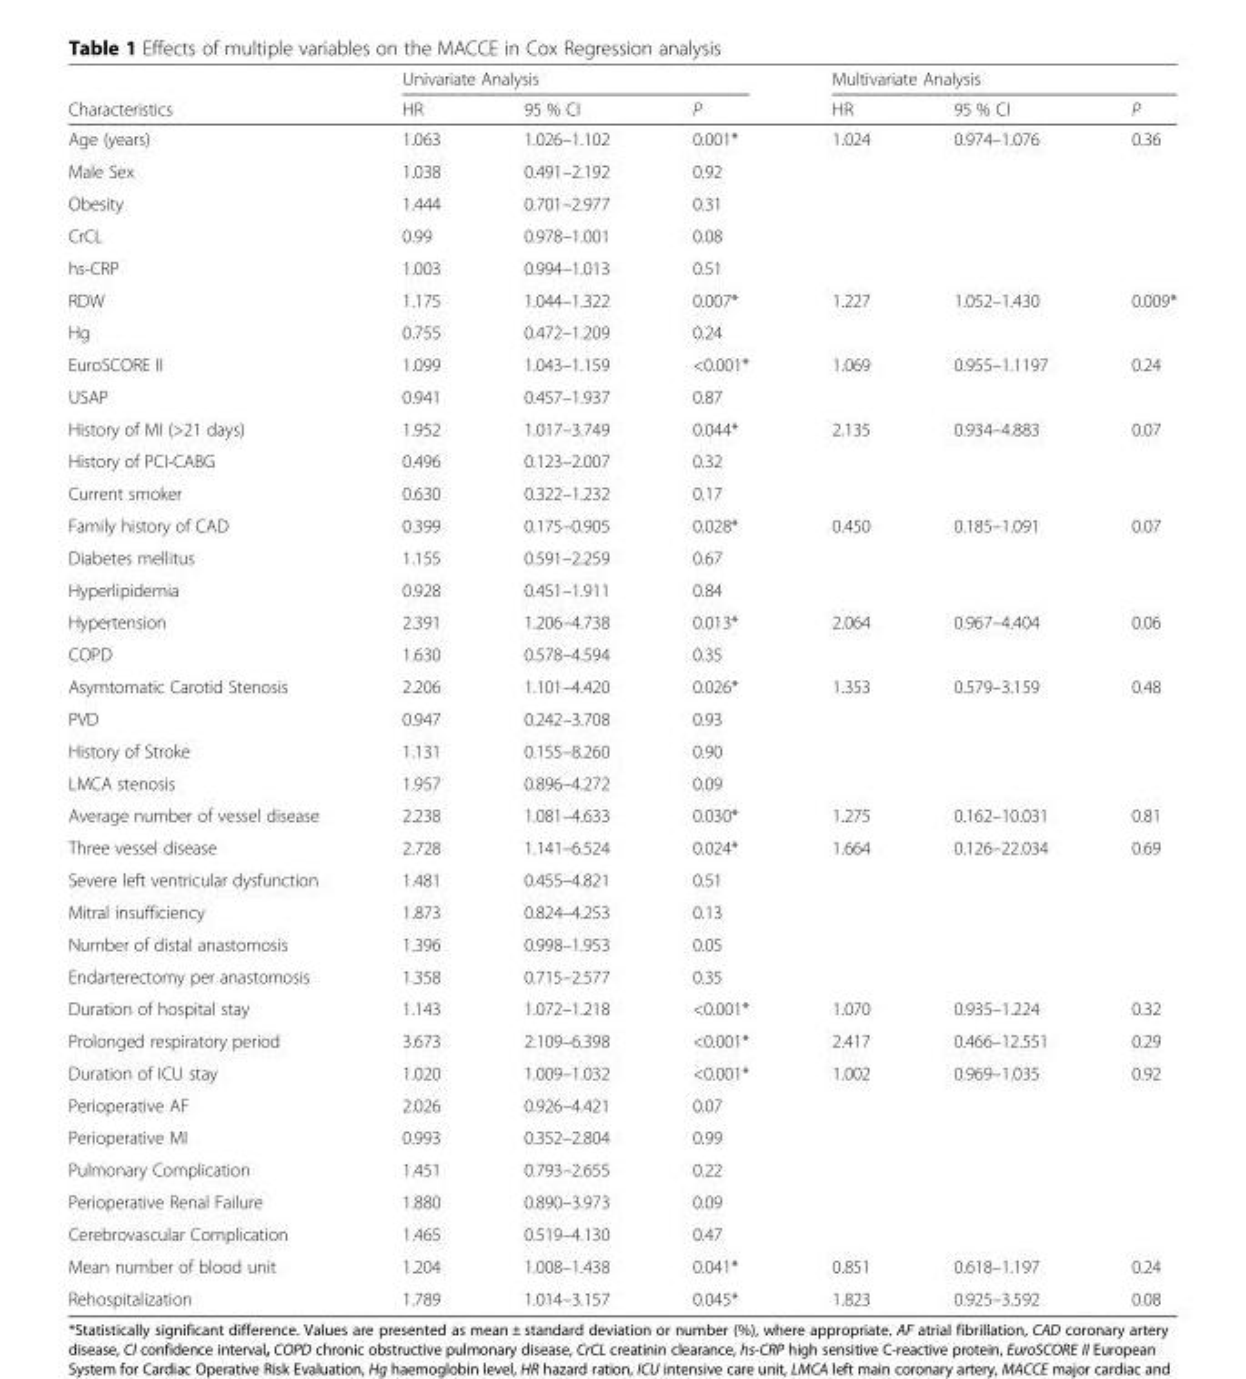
<table><thead><tr><td rowspan="2">Characteristics</td><td colspan="3">Univariate Analysis</td><td colspan="3">Multivariate Analysis</td></tr><tr><td>HR</td><td>95 % CI</td><td>P</td><td>HR</td><td>95 % CI</td><td>P</td></tr></thead><tbody><tr><td>Age (years)</td><td>1.063</td><td>1.026–1.102</td><td>0.001*</td><td>1.024</td><td>0.974–1.076</td><td>0.36</td></tr><tr><td>Male Sex</td><td>1.038</td><td>0.491–2.192</td><td>0.92</td><td></td><td></td><td></td></tr><tr><td>Obesity</td><td>1.444</td><td>0.701–2.977</td><td>0.31</td><td></td><td></td><td></td></tr><tr><td>CrCL</td><td>0.99</td><td>0.978–1.001</td><td>0.08</td><td></td><td></td><td></td></tr><tr><td>hs-CRP</td><td>1.003</td><td>0.994–1.013</td><td>0.51</td><td></td><td></td><td></td></tr><tr><td>RDW</td><td>1.175</td><td>1.044–1.322</td><td>0.007*</td><td>1.227</td><td>1.052–1.430</td><td>0.009*</td></tr><tr><td>Hg</td><td>0.755</td><td>0.472–1.209</td><td>0.24</td><td></td><td></td><td></td></tr><tr><td>EuroSCORE II</td><td>1.099</td><td>1.043–1.159</td><td>&lt;0.001*</td><td>1.069</td><td>0.955–1.1197</td><td>0.24</td></tr><tr><td>USAP</td><td>0.941</td><td>0.457–1.937</td><td>0.87</td><td></td><td></td><td></td></tr><tr><td>History of MI (&gt;21 days)</td><td>1.952</td><td>1.017–3.749</td><td>0.044*</td><td>2.135</td><td>0.934–4.883</td><td>0.07</td></tr><tr><td>History of PCI-CABG</td><td>0.496</td><td>0.123–2.007</td><td>0.32</td><td></td><td></td><td></td></tr><tr><td>Current smoker</td><td>0.630</td><td>0.322–1.232</td><td>0.17</td><td></td><td></td><td></td></tr><tr><td>Family history of CAD</td><td>0.399</td><td>0.175–0.905</td><td>0.028*</td><td>0.450</td><td>0.185–1.091</td><td>0.07</td></tr><tr><td>Diabetes mellitus</td><td>1.155</td><td>0.591–2.259</td><td>0.67</td><td></td><td></td><td></td></tr><tr><td>Hyperlipidemia</td><td>0.928</td><td>0.451–1.911</td><td>0.84</td><td></td><td></td><td></td></tr><tr><td>Hypertension</td><td>2.391</td><td>1.206–4.738</td><td>0.013*</td><td>2.064</td><td>0.967–4.404</td><td>0.06</td></tr><tr><td>COPD</td><td>1.630</td><td>0.578–4.594</td><td>0.35</td><td></td><td></td><td></td></tr><tr><td>Asymtomatic Carotid Stenosis</td><td>2.206</td><td>1.101–4.420</td><td>0.026*</td><td>1.353</td><td>0.579–3.159</td><td>0.48</td></tr><tr><td>PVD</td><td>0.947</td><td>0.242–3.708</td><td>0.93</td><td></td><td></td><td></td></tr><tr><td>History of Stroke</td><td>1.131</td><td>0.155–8.260</td><td>0.90</td><td></td><td></td><td></td></tr><tr><td>LMCA stenosis</td><td>1.957</td><td>0.896–4.272</td><td>0.09</td><td></td><td></td><td></td></tr><tr><td>Average number of vessel disease</td><td>2.238</td><td>1.081–4.633</td><td>0.030*</td><td>1.275</td><td>0.162–10.031</td><td>0.81</td></tr><tr><td>Three vessel disease</td><td>2.728</td><td>1.141–6.524</td><td>0.024*</td><td>1.664</td><td>0.126–22.034</td><td>0.69</td></tr><tr><td>Severe left ventricular dysfunction</td><td>1.481</td><td>0.455–4.821</td><td>0.51</td><td></td><td></td><td></td></tr><tr><td>Mitral insufficiency</td><td>1.873</td><td>0.824–4.253</td><td>0.13</td><td></td><td></td><td></td></tr><tr><td>Number of distal anastomosis</td><td>1.396</td><td>0.998–1.953</td><td>0.05</td><td></td><td></td><td></td></tr><tr><td>Endarterectomy per anastomosis</td><td>1.358</td><td>0.715–2.577</td><td>0.35</td><td></td><td></td><td></td></tr><tr><td>Duration of hospital stay</td><td>1.143</td><td>1.072–1.218</td><td>&lt;0.001*</td><td>1.070</td><td>0.935–1.224</td><td>0.32</td></tr><tr><td>Prolonged respiratory period</td><td>3.673</td><td>2.109–6.398</td><td>&lt;0.001*</td><td>2.417</td><td>0.466–12.551</td><td>0.29</td></tr><tr><td>Duration of ICU stay</td><td>1.020</td><td>1.009–1.032</td><td>&lt;0.001*</td><td>1.002</td><td>0.969–1.035</td><td>0.92</td></tr><tr><td>Perioperative AF</td><td>2.026</td><td>0.926–4.421</td><td>0.07</td><td></td><td></td><td></td></tr><tr><td>Perioperative MI</td><td>0.993</td><td>0.352–2.804</td><td>0.99</td><td></td><td></td><td></td></tr><tr><td>Pulmonary Complication</td><td>1.451</td><td>0.793–2.655</td><td>0.22</td><td></td><td></td><td></td></tr><tr><td>Perioperative Renal Failure</td><td>1.880</td><td>0.890–3.973</td><td>0.09</td><td></td><td></td><td></td></tr><tr><td>Cerebrovascular Complication</td><td>1.465</td><td>0.519–4.130</td><td>0.47</td><td></td><td></td><td></td></tr><tr><td>Mean number of blood unit</td><td>1.204</td><td>1.008–1.438</td><td>0.041*</td><td>0.851</td><td>0.618–1.197</td><td>0.24</td></tr><tr><td>Rehospitalization</td><td>1.789</td><td>1.014–3.157</td><td>0.045*</td><td>1.823</td><td>0.925–3.592</td><td>0.08</td></tr></tbody></table>